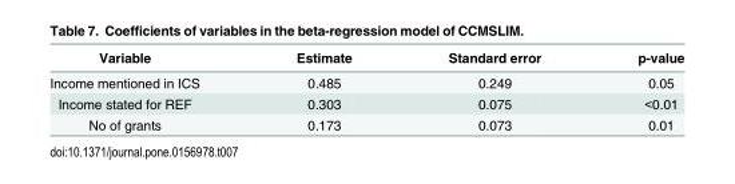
<table><thead><tr><td>Variable</td><td>Estimate</td><td>Standard error</td><td>p-value</td></tr></thead><tbody><tr><td>Income mentioned in ICS</td><td>0.485</td><td>0.249</td><td>0.05</td></tr><tr><td>Income stated for REF</td><td>0.303</td><td>0.075</td><td>&lt;0.01</td></tr><tr><td>No of grants</td><td>0.173</td><td>0.073</td><td>0.01</td></tr></tbody></table>